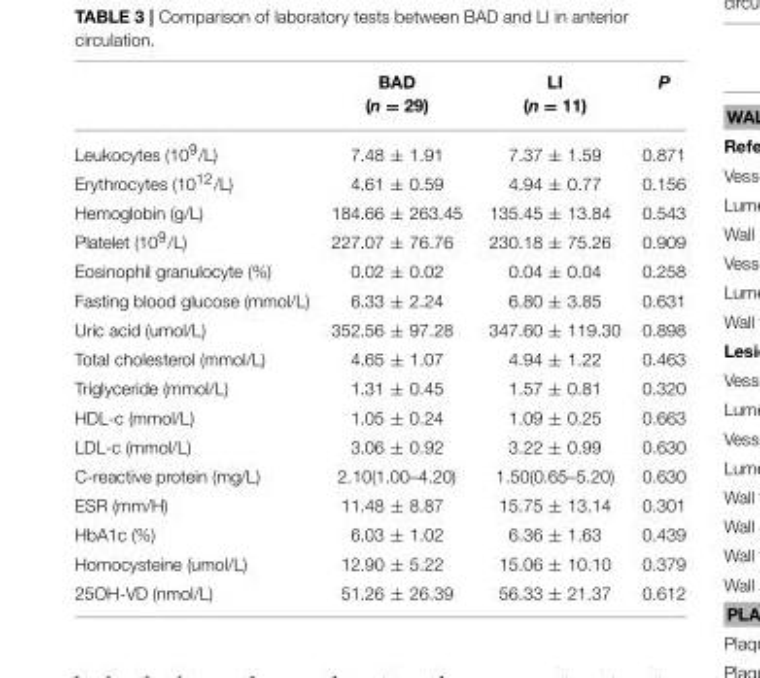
<table><thead><tr><td></td><td>BAD (n = 29)</td><td>LI (n = 11)</td><td>P</td></tr></thead><tbody><tr><td>Leukocytes (10<sup>9</sup>/L)</td><td>7.48 ± 1.91</td><td>7.37 ± 1.59</td><td>0.871</td></tr><tr><td>Erythrocytes (10<sup>12</sup>/L)</td><td>4.61 ± 0.59</td><td>4.94 ± 0.77</td><td>0.156</td></tr><tr><td>Hemoglobin (g/L)</td><td>184.66 ± 263.45</td><td>135.45 ± 13.84</td><td>0.543</td></tr><tr><td>Platelet (10<sup>9</sup>/L)</td><td>227.07 ± 76.76</td><td>230.18 ± 75.26</td><td>0.909</td></tr><tr><td>Eosinophil granulocyte (%)</td><td>0.02 ± 0.02</td><td>0.04 ± 0.04</td><td>0.258</td></tr><tr><td>Fasting blood glucose (mmol/L)</td><td>6.33 ± 2.24</td><td>6.80 ± 3.85</td><td>0.631</td></tr><tr><td>Uric acid (umol/L)</td><td>352.56 ± 97.28</td><td>347.60 ± 119.30</td><td>0.898</td></tr><tr><td>Total cholesterol (mmol/L)</td><td>4.65 ± 1.07</td><td>4.94 ± 1.22</td><td>0.463</td></tr><tr><td>Triglyceride (mmol/L)</td><td>1.31 ± 0.45</td><td>1.57 ± 0.81</td><td>0.320</td></tr><tr><td>HDL-c (mmol/L)</td><td>1.05 ± 0.24</td><td>1.09 ± 0.25</td><td>0.663</td></tr><tr><td>LDL-c (mmol/L)</td><td>3.06 ± 0.92</td><td>3.22 ± 0.99</td><td>0.630</td></tr><tr><td>C-reactive protein (mg/L)</td><td>2.10(1.00–4.20)</td><td>1.50(0.65–5.20)</td><td>0.630</td></tr><tr><td>ESR (mm/H)</td><td>11.48 ± 8.87</td><td>15.75 ± 13.14</td><td>0.301</td></tr><tr><td>HbA1c (%)</td><td>6.03 ± 1.02</td><td>6.36 ± 1.63</td><td>0.439</td></tr><tr><td>Homocysteine (umol/L)</td><td>12.90 ± 5.22</td><td>15.06 ± 10.10</td><td>0.379</td></tr><tr><td>25OH-VD (nmol/L)</td><td>51.26 ± 26.39</td><td>56.33 ± 21.37</td><td>0.612</td></tr></tbody></table>